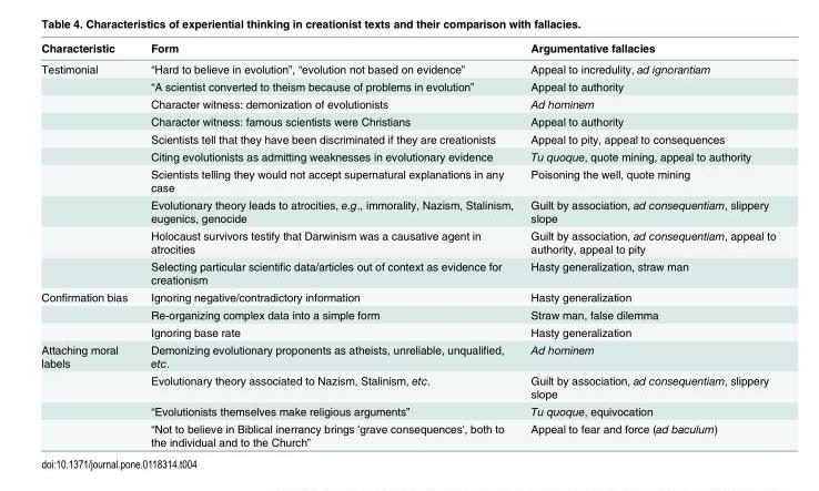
<table><thead><tr><td>Characteristic</td><td>Form</td><td>Argumentative fallacies</td></tr></thead><tbody><tr><td rowspan="10">Testimonial</td><td>“Hard to believe in evolution”, “evolution not based on evidence”</td><td>Appeal to incredulity, ad ignorantiam</td></tr><tr><td>“A scientist converted to theism because of problems in evolution”</td><td>Appeal to authority</td></tr><tr><td>Character witness: demonization of evolutionists</td><td>Ad hominem</td></tr><tr><td>Character witness: famous scientists were Christians</td><td>Appeal to authority</td></tr><tr><td>Scientists tell that they have been discriminated if they are creationists</td><td>Appeal to pity, appeal to consequences</td></tr><tr><td>Citing evolutionists as admitting weaknesses in evolutionary evidence</td><td>Tu quoque, quote mining, appeal to authority</td></tr><tr><td>Scientists telling they would not accept supernatural explanations in any case</td><td>Poisoning the well, quote mining</td></tr><tr><td>Evolutionary theory leads to atrocities, e.g., immorality, Nazism, Stalinism, eugenics, genocide</td><td>Guilt by association, ad consequentiam, slippery slope</td></tr><tr><td>Holocaust survivors testify that Darwinism was a causative agent in atrocities</td><td>Guilt by association, ad consequentiam, appeal to authority, appeal to pity</td></tr><tr><td>Selecting particular scientific data/articles out of context as evidence for creationism</td><td>Hasty generalization, straw man</td></tr><tr><td rowspan="3">Confirmation bias</td><td>Ignoring negative/contradictory information</td><td>Hasty generalization</td></tr><tr><td>Re-organizing complex data into a simple form</td><td>Straw man, false dilemma</td></tr><tr><td>Ignoring base rate</td><td>Hasty generalization</td></tr><tr><td rowspan="4">Attaching moral labels</td><td>Demonizing evolutionary proponents as atheists, unreliable, unqualified, etc.</td><td>Ad hominem</td></tr><tr><td>Evolutionary theory associated to Nazism, Stalinism, etc.</td><td>Guilt by association, ad consequentiam, slippery slope</td></tr><tr><td>“Evolutionists themselves make religious arguments”</td><td>Tu quoque, equivocation</td></tr><tr><td>“Not to believe in Biblical inerrancy brings &#x27;grave consequences&#x27;, both to the individual and to the Church”</td><td>Appeal to fear and force (ad baculum)</td></tr></tbody></table>